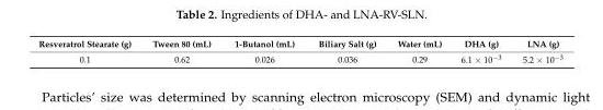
<table><thead><tr><td>Resveratrol Stearate (g)</td><td>Tween 80 (mL)</td><td>1-Butanol (mL)</td><td>Biliary Salt (g)</td><td>Water (mL)</td><td>DHA (g)</td><td>LNA (g)</td></tr></thead><tbody><tr><td>0.1</td><td>0.62</td><td>0.026</td><td>0.036</td><td>0.29</td><td>6.1 × 10−3</td><td>5.2 × 10−3</td></tr></tbody></table>